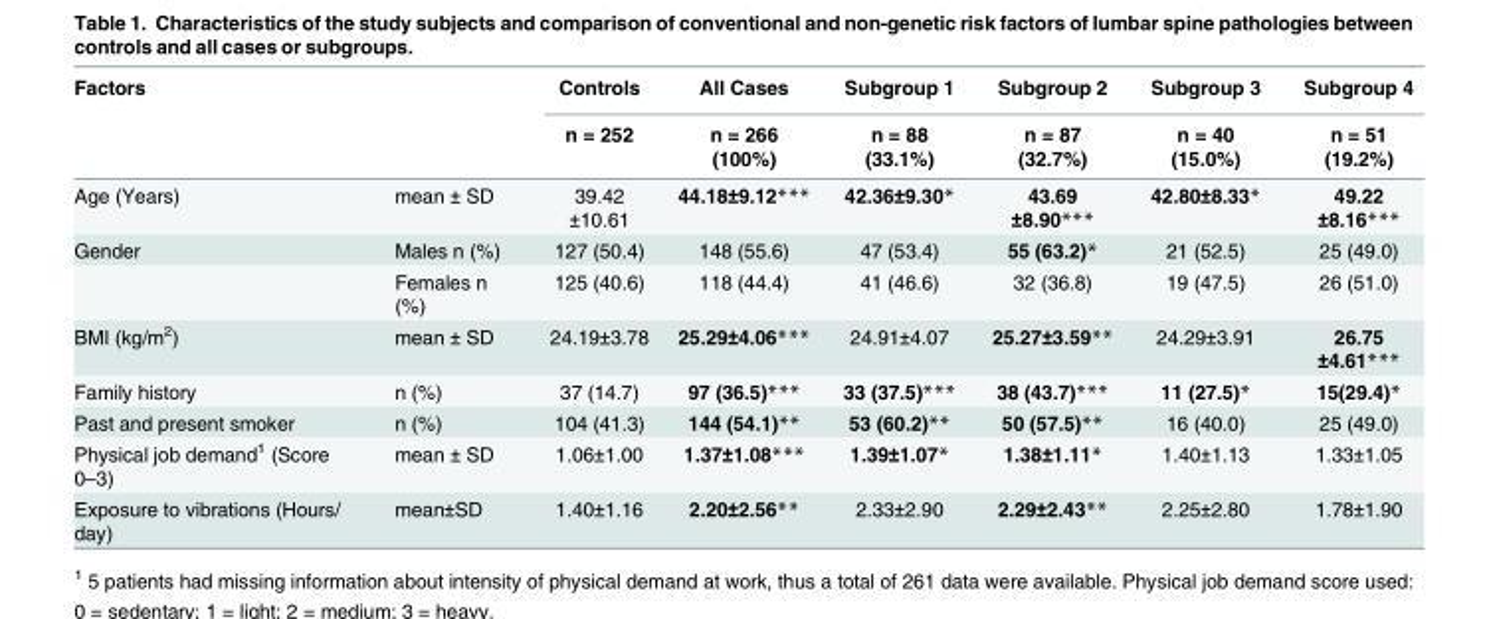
<table><thead><tr><td rowspan="2">Factors</td><td rowspan="2"></td><td rowspan="2">Controls n = 252</td><td rowspan="2">All Cases n = 266 (100%)</td><td rowspan="2">Subgroup 1 n = 88 (33.1%)</td><td rowspan="2">Subgroup 2 n = 87 (32.7%)</td><td rowspan="2">Subgroup 3 n = 40 (15.0%)</td><td rowspan="2">Subgroup 4 n = 51 (19.2%)</td></tr><tr></tr></thead><tbody><tr><td>Age (Years)</td><td>mean ± SD</td><td>39.42 ±10.61</td><td>44.18±9.12***</td><td>42.36±9.30*</td><td>43.69 ±8.90***</td><td>42.80±8.33*</td><td>49.22 ±8.16***</td></tr><tr><td rowspan="2">Gender</td><td>Males n (%)</td><td>127 (50.4)</td><td>148 (55.6)</td><td>47 (53.4)</td><td>55 (63.2)*</td><td>21 (52.5)</td><td>25 (49.0)</td></tr><tr><td>Females n (%)</td><td>125 (40.6)</td><td>118 (44.4)</td><td>41 (46.6)</td><td>32 (36.8)</td><td>19 (47.5)</td><td>26 (51.0)</td></tr><tr><td>BMI (kg/m<sup>2</sup>)</td><td>mean ± SD</td><td>24.19±3.78</td><td>25.29±4.06***</td><td>24.91±4.07</td><td>25.27±3.59**</td><td>24.29±3.91</td><td>26.75 ±4.61***</td></tr><tr><td>Family history</td><td>n (%)</td><td>37 (14.7)</td><td>97 (36.5)***</td><td>33 (37.5)***</td><td>38 (43.7)***</td><td>11 (27.5)*</td><td>15(29.4)*</td></tr><tr><td>Past and present smoker</td><td>n (%)</td><td>104 (41.3)</td><td>144 (54.1)**</td><td>53 (60.2)**</td><td>50 (57.5)**</td><td>16 (40.0)</td><td>25 (49.0)</td></tr><tr><td>Physical job demand<sup>1</sup> (Score 0–3)</td><td>mean ± SD</td><td>1.06±1.00</td><td>1.37±1.08***</td><td>1.39±1.07*</td><td>1.38±1.11*</td><td>1.40±1.13</td><td>1.33±1.05</td></tr><tr><td>Exposure to vibrations (Hours/ day)</td><td>mean±SD</td><td>1.40±1.16</td><td>2.20±2.56**</td><td>2.33±2.90</td><td>2.29±2.43**</td><td>2.25±2.80</td><td>1.78±1.90</td></tr></tbody></table>